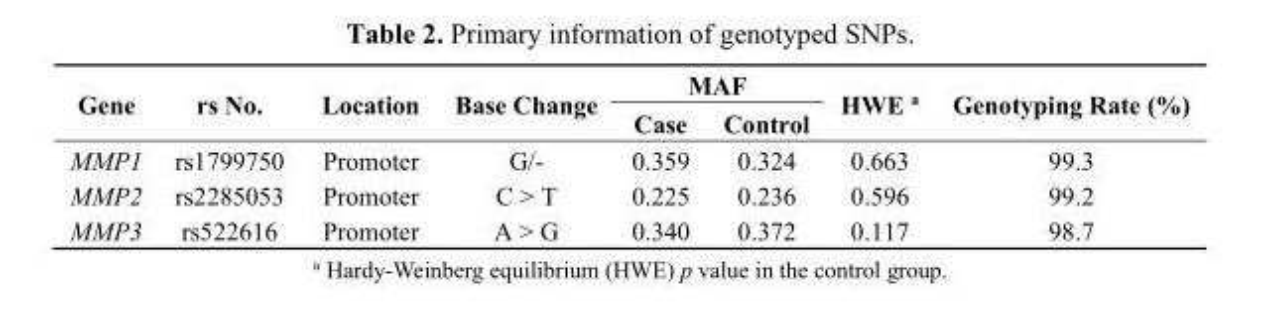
<table><thead><tr><td rowspan="2">Gene</td><td rowspan="2">rs No.</td><td rowspan="2">Location</td><td rowspan="2">Base Change</td><td colspan="2">MAF</td><td rowspan="2">HWE <sup>a</sup></td><td rowspan="2">Genotyping Rate (%)</td></tr><tr><td>Case</td><td>Control</td></tr></thead><tbody><tr><td>MMP1</td><td>rs1799750</td><td>Promoter</td><td>G/-</td><td>0.359</td><td>0.324</td><td>0.663</td><td>99.3</td></tr><tr><td>MMP2</td><td>rs2285053</td><td>Promoter</td><td>C &gt; T</td><td>0.225</td><td>0.236</td><td>0.596</td><td>99.2</td></tr><tr><td>MMP3</td><td>rs522616</td><td>Promoter</td><td>A &gt; G</td><td>0.340</td><td>0.372</td><td>0.117</td><td>98.7</td></tr></tbody></table>